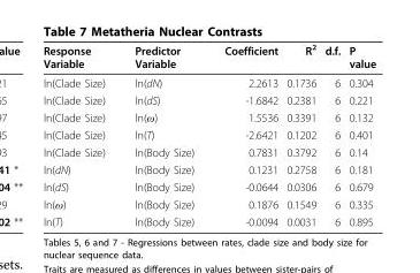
<table><thead><tr><td>Response Variable</td><td>Predictor Variable</td><td>Coefficient</td><td>R<sup>2</sup></td><td>d.f.</td><td>P value</td></tr></thead><tbody><tr><td>ln(Clade Size)</td><td>ln(dN)</td><td>2.2613</td><td>0.1736</td><td>6</td><td>0.304</td></tr><tr><td>ln(Clade Size)</td><td>ln(dS)</td><td>-1.6842</td><td>0.2381</td><td>6</td><td>0.221</td></tr><tr><td>ln(Clade Size)</td><td>ln(ω)</td><td>1.5536</td><td>0.3391</td><td>6</td><td>0.132</td></tr><tr><td>ln(Clade Size)</td><td>ln(T)</td><td>-2.6421</td><td>0.1202</td><td>6</td><td>0.401</td></tr><tr><td>ln(Clade Size)</td><td>ln(Body Size)</td><td>0.7831</td><td>0.3792</td><td>6</td><td>0.14</td></tr><tr><td>ln(dN)</td><td>ln(Body Size)</td><td>0.1231</td><td>0.2758</td><td>6</td><td>0.181</td></tr><tr><td>ln(dS)</td><td>ln(Body Size)</td><td>-0.0644</td><td>0.0306</td><td>6</td><td>0.679</td></tr><tr><td>ln(ω)</td><td>ln(Body Size)</td><td>0.1876</td><td>0.1549</td><td>6</td><td>0.335</td></tr><tr><td>ln(T)</td><td>ln(Body Size)</td><td>-0.0094</td><td>0.0031</td><td>6</td><td>0.895</td></tr></tbody></table>